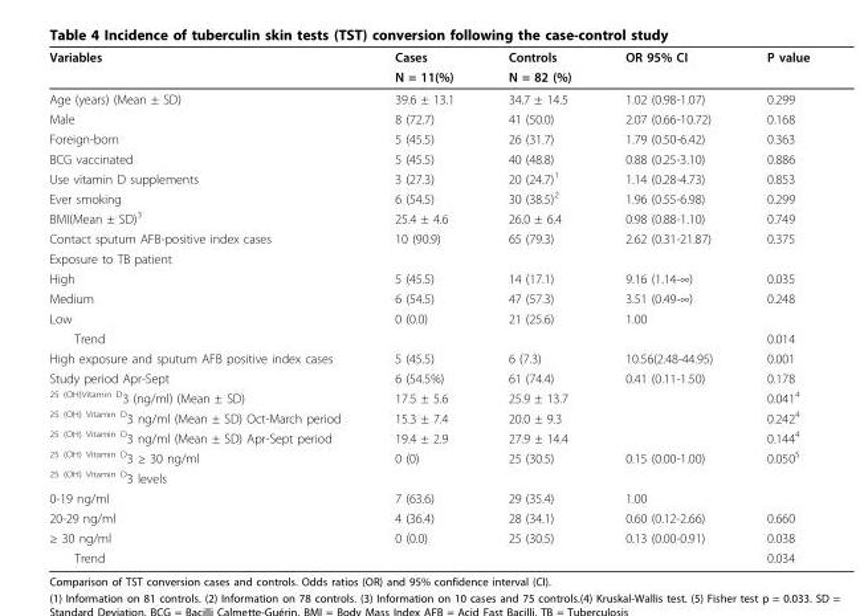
<table><thead><tr><td rowspan="2">Variables</td><td rowspan="2">Cases N = 11(%)</td><td rowspan="2">Controls N = 82 (%)</td><td rowspan="2">OR 95% CI</td><td rowspan="2">P value</td></tr><tr></tr></thead><tbody><tr><td>Age (years) (Mean ± SD)</td><td>39.6 ± 13.1</td><td>34.7 ± 14.5</td><td>1.02 (0.98-1.07)</td><td>0.299</td></tr><tr><td>Male</td><td>8 (72.7)</td><td>41 (50.0)</td><td>2.07 (0.66-10.72)</td><td>0.168</td></tr><tr><td>Foreign-born</td><td>5 (45.5)</td><td>26 (31.7)</td><td>1.79 (0.50-6.42)</td><td>0.363</td></tr><tr><td>BCG vaccinated</td><td>5 (45.5)</td><td>40 (48.8)</td><td>0.88 (0.25-3.10)</td><td>0.886</td></tr><tr><td>Use vitamin D supplements</td><td>3 (27.3)</td><td>20 (24.7)<sup>1</sup></td><td>1.14 (0.28-4.73)</td><td>0.853</td></tr><tr><td>Ever smoking</td><td>6 (54.5)</td><td>30 (38.5)<sup>2</sup></td><td>1.96 (0.55-6.98)</td><td>0.299</td></tr><tr><td>BMI(Mean ± SD)<sup>3</sup></td><td>25.4 ± 4.6</td><td>26.0 ± 6.4</td><td>0.98 (0.88-1.10)</td><td>0.749</td></tr><tr><td>Contact sputum AFB-positive index cases</td><td>10 (90.9)</td><td>65 (79.3)</td><td>2.62 (0.31-21.87)</td><td>0.375</td></tr><tr><td colspan="5">Exposure to TB patient</td></tr><tr><td>High</td><td>5 (45.5)</td><td>14 (17.1)</td><td>9.16 (1.14-∞)</td><td>0.035</td></tr><tr><td>Medium</td><td>6 (54.5)</td><td>47 (57.3)</td><td>3.51 (0.49-∞)</td><td>0.248</td></tr><tr><td>Low</td><td>0 (0.0)</td><td>21 (25.6)</td><td>1.00</td><td></td></tr><tr><td>Trend</td><td></td><td></td><td></td><td>0.014</td></tr><tr><td>High exposure and sputum AFB positive index cases</td><td>5 (45.5)</td><td>6 (7.3)</td><td>10.56(2.48-44.95)</td><td>0.001</td></tr><tr><td>Study period Apr-Sept</td><td>6 (54.5%)</td><td>61 (74.4)</td><td>0.41 (0.11-1.50)</td><td>0.178</td></tr><tr><td><sup>25 (OH)Vitamin D</sup>3 (ng/ml) (Mean ± SD)</td><td>17.5 ± 5.6</td><td>25.9 ± 13.7</td><td></td><td>0.041<sup>4</sup></td></tr><tr><td><sup>25 (OH) Vitamin D</sup>3 ng/ml (Mean ± SD) Oct-March period</td><td>15.3 ± 7.4</td><td>20.0 ± 9.3</td><td></td><td>0.242<sup>4</sup></td></tr><tr><td><sup>25 (OH) Vitamin D</sup>3 ng/ml (Mean ± SD) Apr-Sept period</td><td>19.4 ± 2.9</td><td>27.9 ± 14.4</td><td></td><td>0.144<sup>4</sup></td></tr><tr><td><sup>25 (OH) Vitamin D</sup>3 ≥ 30 ng/ml</td><td>0 (0)</td><td>25 (30.5)</td><td>0.15 (0.00-1.00)</td><td>0.050<sup>5</sup></td></tr><tr><td colspan="5"><sup>25 (OH) Vitamin D</sup>3 levels</td></tr><tr><td>0-19 ng/ml</td><td>7 (63.6)</td><td>29 (35.4)</td><td>1.00</td><td></td></tr><tr><td>20-29 ng/ml</td><td>4 (36.4)</td><td>28 (34.1)</td><td>0.60 (0.12-2.66)</td><td>0.660</td></tr><tr><td>≥ 30 ng/ml</td><td>0 (0.0)</td><td>25 (30.5)</td><td>0.13 (0.00-0.91)</td><td>0.038</td></tr><tr><td>Trend</td><td></td><td></td><td></td><td>0.034</td></tr></tbody></table>